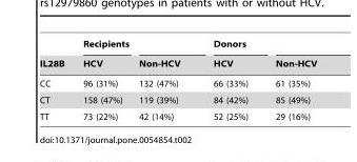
<table><thead><tr><td rowspan="2">IL28B</td><td rowspan="2">Recipients HCV</td><td rowspan="2">Non-HCV</td><td rowspan="2">Donors HCV</td><td rowspan="2">Non-HCV</td></tr><tr></tr></thead><tbody><tr><td>CC</td><td>96 (31%)</td><td>132 (47%)</td><td>66 (33%)</td><td>61 (35%)</td></tr><tr><td>CT</td><td>158 (47%)</td><td>119 (39%)</td><td>84 (42%)</td><td>85 (49%)</td></tr><tr><td>TT</td><td>73 (22%)</td><td>42 (14%)</td><td>52 (25%)</td><td>29 (16%)</td></tr></tbody></table>